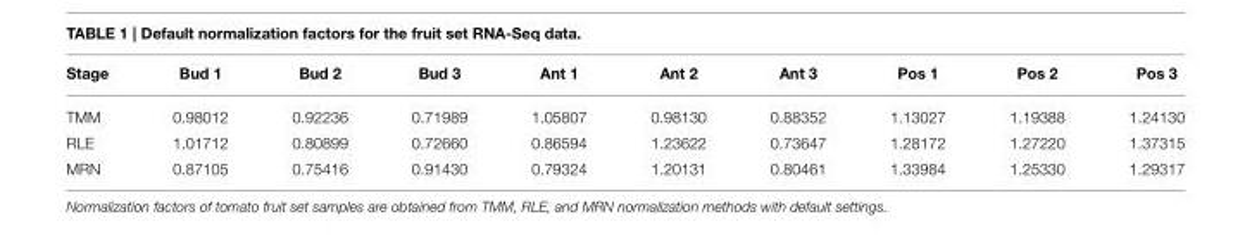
<table><thead><tr><td>Stage</td><td>Bud 1</td><td>Bud 2</td><td>Bud 3</td><td>Ant 1</td><td>Ant 2</td><td>Ant 3</td><td>Pos 1</td><td>Pos 2</td><td>Pos 3</td></tr></thead><tbody><tr><td>TMM</td><td>0.98012</td><td>0.92236</td><td>0.71989</td><td>1.05807</td><td>0.98130</td><td>0.88352</td><td>1.13027</td><td>1.19388</td><td>1.24130</td></tr><tr><td>RLE</td><td>1.01712</td><td>0.80899</td><td>0.72660</td><td>0.86594</td><td>1.23622</td><td>0.73647</td><td>1.28172</td><td>1.27220</td><td>1.37315</td></tr><tr><td>MRN</td><td>0.87105</td><td>0.75416</td><td>0.91430</td><td>0.79324</td><td>1.20131</td><td>0.80461</td><td>1.33984</td><td>1.25330</td><td>1.29317</td></tr></tbody></table>